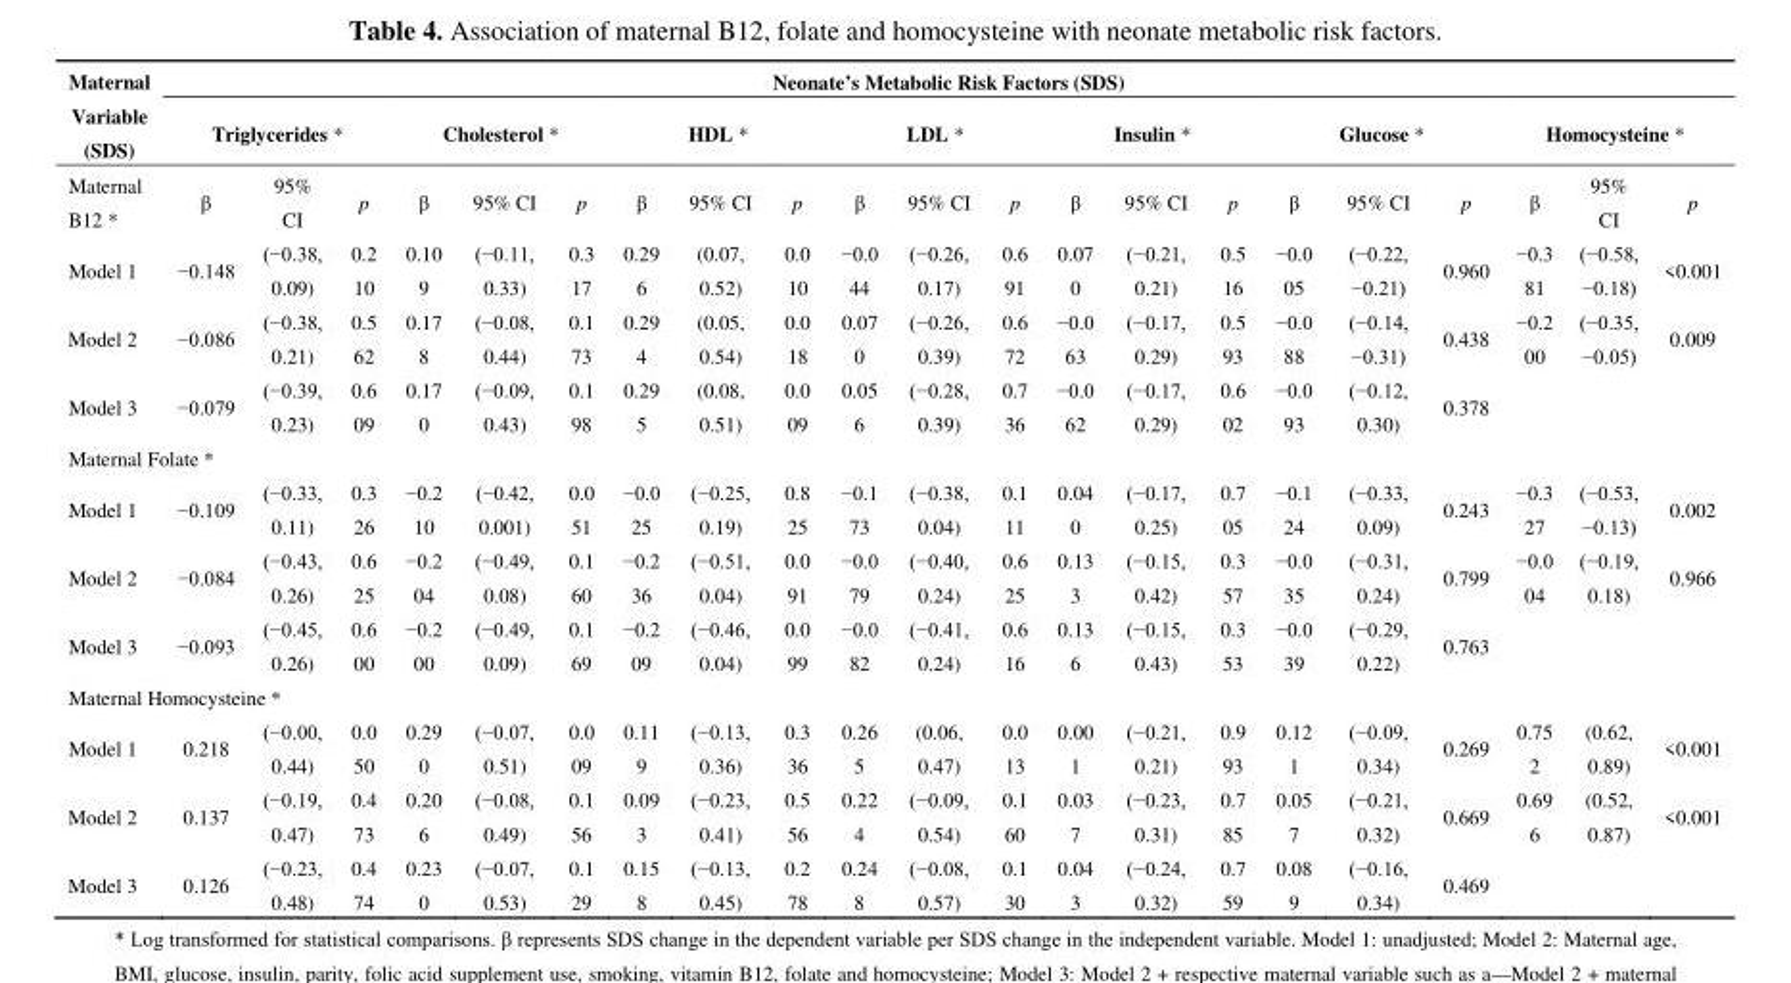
<table><thead><tr><td rowspan="3">Maternal Variable (SDS) Maternal B12 *</td><td colspan="21">Neonate’s Metabolic Risk Factors (SDS)</td></tr><tr><td colspan="3">Triglycerides *</td><td colspan="3">Cholesterol *</td><td colspan="3">HDL *</td><td colspan="3">LDL *</td><td colspan="3">Insulin *</td><td colspan="3">Glucose *</td><td colspan="3">Homocysteine *</td></tr><tr><td>β</td><td>95% CI</td><td>p</td><td>β</td><td>95% CI</td><td>p</td><td>β</td><td>95% CI</td><td>p</td><td>β</td><td>95% CI</td><td>p</td><td>β</td><td>95% CI</td><td>p</td><td>β</td><td>95% CI</td><td>p</td><td>β</td><td>95% CI</td><td>p</td></tr></thead><tbody><tr><td>Model 1</td><td>−0.148</td><td>(−0.38, 0.09)</td><td>0.2 10</td><td>0.10 9</td><td>(−0.11, 0.33)</td><td>0.3 17</td><td>0.29 6</td><td>(0.07, 0.52)</td><td>0.0 10</td><td>−0.0 44</td><td>(−0.26, 0.17)</td><td>0.6 91</td><td>0.07 0</td><td>(−0.21, 0.21)</td><td>0.5 16</td><td>−0.0 05</td><td>(−0.22, −0.21)</td><td>0.960</td><td>−0.3 81</td><td>(−0.58, −0.18)</td><td>&lt;0.001</td></tr><tr><td>Model 2</td><td>−0.086</td><td>(−0.38, 0.21)</td><td>0.5 62</td><td>0.17 8</td><td>(−0.08, 0.44)</td><td>0.1 73</td><td>0.29 4</td><td>(0.05, 0.54)</td><td>0.0 18</td><td>0.07 0</td><td>(−0.26, 0.39)</td><td>0.6 72</td><td>−0.0 63</td><td>(−0.17, 0.29)</td><td>0.5 93</td><td>−0.0 88</td><td>(−0.14, −0.31)</td><td>0.438</td><td>−0.2 00</td><td>(−0.35, −0.05)</td><td>0.009</td></tr><tr><td>Model 3</td><td>−0.079</td><td>(−0.39, 0.23)</td><td>0.6 09</td><td>0.17 0</td><td>(−0.09, 0.43)</td><td>0.1 98</td><td>0.29 5</td><td>(0.08, 0.51)</td><td>0.0 09</td><td>0.05 6</td><td>(−0.28, 0.39)</td><td>0.7 36</td><td>−0.0 62</td><td>(−0.17, 0.29)</td><td>0.6 02</td><td>−0.0 93</td><td>(−0.12, 0.30)</td><td>0.378</td><td></td><td></td><td></td></tr><tr><td colspan="22">Maternal Folate *</td></tr><tr><td>Model 1</td><td>−0.109</td><td>(−0.33, 0.11)</td><td>0.3 26</td><td>−0.2 10</td><td>(−0.42, 0.001)</td><td>0.0 51</td><td>−0.0 25</td><td>(−0.25, 0.19)</td><td>0.8 25</td><td>−0.1 73</td><td>(−0.38, 0.04)</td><td>0.1 11</td><td>0.04 0</td><td>(−0.17, 0.25)</td><td>0.7 05</td><td>−0.1 24</td><td>(−0.33, 0.09)</td><td>0.243</td><td>−0.3 27</td><td>(−0.53, −0.13)</td><td>0.002</td></tr><tr><td>Model 2</td><td>−0.084</td><td>(−0.43, 0.26)</td><td>0.6 25</td><td>−0.2 04</td><td>(−0.49, 0.08)</td><td>0.1 60</td><td>−0.2 36</td><td>(−0.51, 0.04)</td><td>0.0 91</td><td>−0.0 79</td><td>(−0.40, 0.24)</td><td>0.6 25</td><td>0.13 3</td><td>(−0.15, 0.42)</td><td>0.3 57</td><td>−0.0 35</td><td>(−0.31, 0.24)</td><td>0.799</td><td>−0.0 04</td><td>(−0.19, 0.18)</td><td>0.966</td></tr><tr><td>Model 3</td><td>−0.093</td><td>(−0.45, 0.26)</td><td>0.6 00</td><td>−0.2 00</td><td>(−0.49, 0.09)</td><td>0.1 69</td><td>−0.2 09</td><td>(−0.46, 0.04)</td><td>0.0 99</td><td>−0.0 82</td><td>(−0.41, 0.24)</td><td>0.6 16</td><td>0.13 6</td><td>(−0.15, 0.43)</td><td>0.3 53</td><td>−0.0 39</td><td>(−0.29, 0.22)</td><td>0.763</td><td></td><td></td><td></td></tr><tr><td colspan="22">Maternal Homocysteine *</td></tr><tr><td>Model 1</td><td>0.218</td><td>(−0.00, 0.44)</td><td>0.0 50</td><td>0.29 0</td><td>(−0.07, 0.51)</td><td>0.0 09</td><td>0.11 9</td><td>(−0.13, 0.36)</td><td>0.3 36</td><td>0.26 5</td><td>(0.06, 0.47)</td><td>0.0 13</td><td>0.00 1</td><td>(−0.21, 0.21)</td><td>0.9 93</td><td>0.12 1</td><td>(−0.09, 0.34)</td><td>0.269</td><td>0.75 2</td><td>(0.62, 0.89)</td><td>&lt;0.001</td></tr><tr><td>Model 2</td><td>0.137</td><td>(−0.19, 0.47)</td><td>0.4 73</td><td>0.20 6</td><td>(−0.08, 0.49)</td><td>0.1 56</td><td>0.09 3</td><td>(−0.23, 0.41)</td><td>0.5 56</td><td>0.22 4</td><td>(−0.09, 0.54)</td><td>0.1 60</td><td>0.03 7</td><td>(−0.23, 0.31)</td><td>0.7 85</td><td>0.05 7</td><td>(−0.21, 0.32)</td><td>0.669</td><td>0.69 6</td><td>(0.52, 0.87)</td><td>&lt;0.001</td></tr><tr><td>Model 3</td><td>0.126</td><td>(−0.23, 0.48)</td><td>0.4 74</td><td>0.23 0</td><td>(−0.07, 0.53)</td><td>0.1 29</td><td>0.15 8</td><td>(−0.13, 0.45)</td><td>0.2 78</td><td>0.24 8</td><td>(−0.08, 0.57)</td><td>0.1 30</td><td>0.04 3</td><td>(−0.24, 0.32)</td><td>0.7 59</td><td>0.08 9</td><td>(−0.16, 0.34)</td><td>0.469</td><td></td><td></td><td></td></tr></tbody></table>